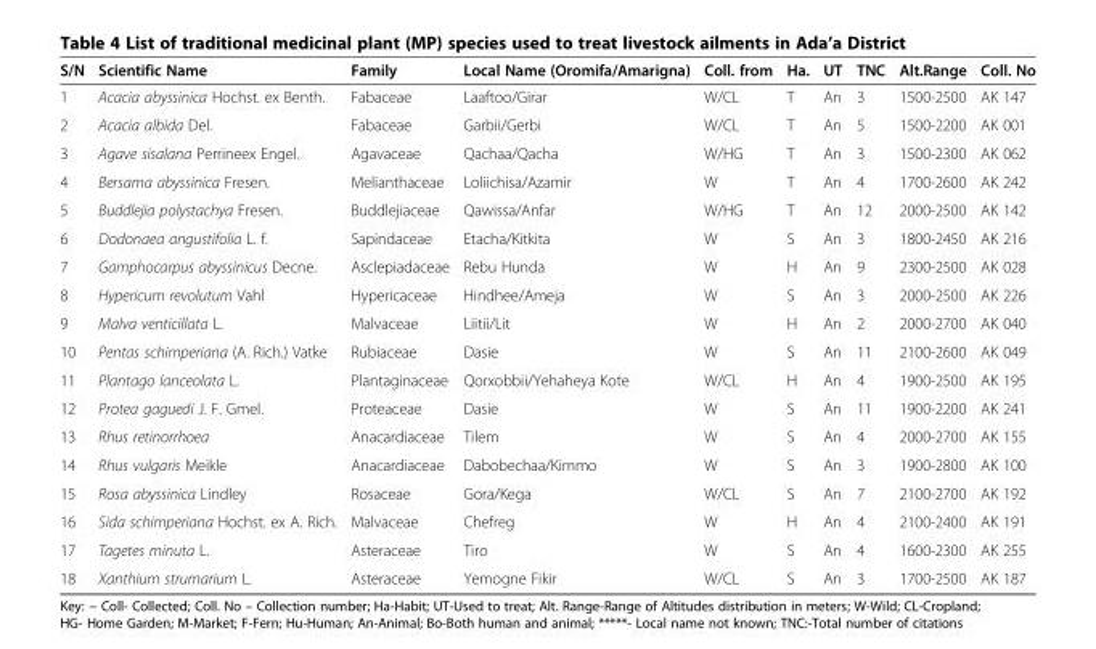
<table><thead><tr><td>S/N</td><td>Scientific Name</td><td>Family</td><td>Local Name (Oromifa/Amarigna)</td><td>Coll. from</td><td>Ha.</td><td>UT</td><td>TNC</td><td>Alt.Range</td><td>Coll. No</td></tr></thead><tbody><tr><td>1</td><td>Acacia abyssinica Hochst. ex Benth.</td><td>Fabaceae</td><td>Laaftoo/Girar</td><td>W/CL</td><td>T</td><td>An</td><td>3</td><td>1500-2500</td><td>AK 147</td></tr><tr><td>2</td><td>Acacia albida Del.</td><td>Fabaceae</td><td>Garbii/Gerbi</td><td>W/CL</td><td>T</td><td>An</td><td>5</td><td>1500-2200</td><td>AK 001</td></tr><tr><td>3</td><td>Agave sisalana Perrineex Engel.</td><td>Agavaceae</td><td>Qachaa/Qacha</td><td>W/HG</td><td>T</td><td>An</td><td>3</td><td>1500-2300</td><td>AK 062</td></tr><tr><td>4</td><td>Bersama abyssinica Fresen.</td><td>Melianthaceae</td><td>Loliichisa/Azamir</td><td>W</td><td>T</td><td>An</td><td>4</td><td>1700-2600</td><td>AK 242</td></tr><tr><td>5</td><td>Buddlejia polystachya Fresen.</td><td>Buddlejiaceae</td><td>Qawissa/Anfar</td><td>W/HG</td><td>T</td><td>An</td><td>12</td><td>2000-2500</td><td>AK 142</td></tr><tr><td>6</td><td>Dodonaea angustifolia L. f.</td><td>Sapindaceae</td><td>Etacha/Kitkita</td><td>W</td><td>S</td><td>An</td><td>3</td><td>1800-2450</td><td>AK 216</td></tr><tr><td>7</td><td>Gamphocarpus abyssinicus Decne.</td><td>Asclepiadaceae</td><td>Rebu Hunda</td><td>W</td><td>H</td><td>An</td><td>9</td><td>2300-2500</td><td>AK 028</td></tr><tr><td>8</td><td>Hypericum revolutum Vahl</td><td>Hypericaceae</td><td>Hindhee/Ameja</td><td>W</td><td>S</td><td>An</td><td>3</td><td>2000-2500</td><td>AK 226</td></tr><tr><td>9</td><td>Malva venticillata L.</td><td>Malvaceae</td><td>Liitii/Lit</td><td>W</td><td>H</td><td>An</td><td>2</td><td>2000-2700</td><td>AK 040</td></tr><tr><td>10</td><td>Pentas schimperiana (A. Rich.) Vatke</td><td>Rubiaceae</td><td>Dasie</td><td>W</td><td>S</td><td>An</td><td>11</td><td>2100-2600</td><td>AK 049</td></tr><tr><td>11</td><td>Plantago lanceolata L.</td><td>Plantaginaceae</td><td>Qorxobbii/Yehaheya Kote</td><td>W/CL</td><td>H</td><td>An</td><td>4</td><td>1900-2500</td><td>AK 195</td></tr><tr><td>12</td><td>Protea gaguedi J. F. Gmel.</td><td>Proteaceae</td><td>Dasie</td><td>W</td><td>S</td><td>An</td><td>11</td><td>1900-2200</td><td>AK 241</td></tr><tr><td>13</td><td>Rhus retinorrhoea</td><td>Anacardiaceae</td><td>Tilem</td><td>W</td><td>S</td><td>An</td><td>4</td><td>2000-2700</td><td>AK 155</td></tr><tr><td>14</td><td>Rhus vulgaris Meikle</td><td>Anacardiaceae</td><td>Dabobechaa/Kimmo</td><td>W</td><td>S</td><td>An</td><td>3</td><td>1900-2800</td><td>AK 100</td></tr><tr><td>15</td><td>Rosa abyssinica Lindley</td><td>Rosaceae</td><td>Gora/Kega</td><td>W/CL</td><td>S</td><td>An</td><td>7</td><td>2100-2700</td><td>AK 192</td></tr><tr><td>16</td><td>Sida schimperiana Hochst. ex A. Rich.</td><td>Malvaceae</td><td>Chefreg</td><td>W</td><td>H</td><td>An</td><td>4</td><td>2100-2400</td><td>AK 191</td></tr><tr><td>17</td><td>Tagetes minuta L.</td><td>Asteraceae</td><td>Tiro</td><td>W</td><td>S</td><td>An</td><td>4</td><td>1600-2300</td><td>AK 255</td></tr><tr><td>18</td><td>Xanthium strumarium L.</td><td>Asteraceae</td><td>Yemogne Fikir</td><td>W/CL</td><td>S</td><td>An</td><td>3</td><td>1700-2500</td><td>AK 187</td></tr></tbody></table>